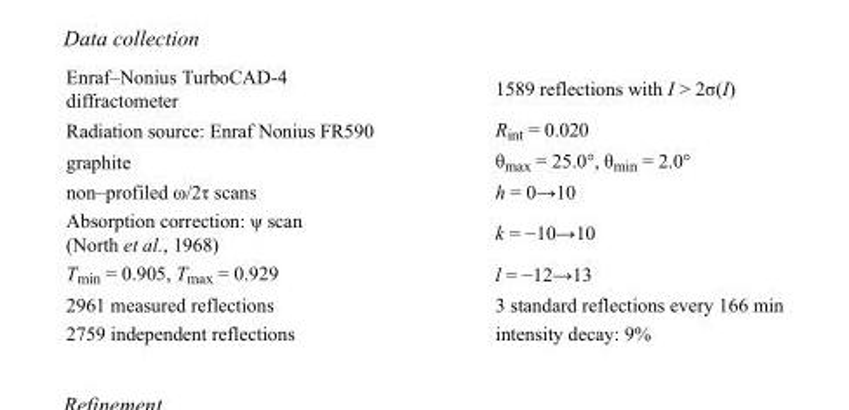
<table><tbody><tr><td>Enraf–Nonius TurboCAD-4 diffractometer</td><td>1589 reflections with I &gt; 2σ(I)</td></tr><tr><td>Radiation source: Enraf Nonius FR590</td><td>R<sub>int</sub> = 0.020</td></tr><tr><td>graphite</td><td>θ<sub>max</sub> = 25.0°, θ<sub>min</sub> = 2.0°</td></tr><tr><td>non–profiled ω/2τ scans</td><td>h = 0→10</td></tr><tr><td>Absorption correction: ψ scan (North et al., 1968)</td><td>k = −10→10</td></tr><tr><td>T<sub>min</sub> = 0.905, T<sub>max</sub> = 0.929</td><td>l = −12→13</td></tr><tr><td>2961 measured reflections</td><td>3 standard reflections every 166 min</td></tr><tr><td>2759 independent reflections</td><td>intensity decay: 9%</td></tr></tbody></table>